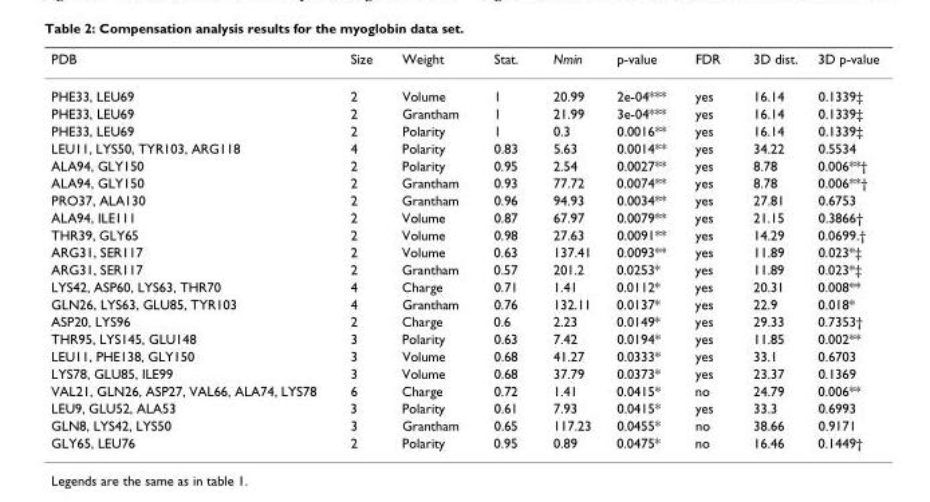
<table><thead><tr><td>PDB</td><td>Size</td><td>Weight</td><td>Stat.</td><td>Nmin</td><td>p-value</td><td>FDR</td><td>3D dist.</td><td>3D p-value</td></tr></thead><tbody><tr><td>PHE33, LEU69</td><td>2</td><td>Volume</td><td>1</td><td>20.99</td><td>2e-04***</td><td>yes</td><td>16.14</td><td>0.1339‡</td></tr><tr><td>PHE33, LEU69</td><td>2</td><td>Grantham</td><td>1</td><td>21.99</td><td>3e-04***</td><td>yes</td><td>16.14</td><td>0.1339‡</td></tr><tr><td>PHE33, LEU69</td><td>2</td><td>Polarity</td><td>1</td><td>0.3</td><td>0.0016**</td><td>yes</td><td>16.14</td><td>0.1339‡</td></tr><tr><td>LEU11, LYS50, TYR103, ARG118</td><td>4</td><td>Polarity</td><td>0.83</td><td>5.63</td><td>0.0014**</td><td>yes</td><td>34.22</td><td>0.5534</td></tr><tr><td>ALA94, GLY150</td><td>2</td><td>Polarity</td><td>0.95</td><td>2.54</td><td>0.0027**</td><td>yes</td><td>8.78</td><td>0.006**†</td></tr><tr><td>ALA94, GLY150</td><td>2</td><td>Grantham</td><td>0.93</td><td>77.72</td><td>0.0074**</td><td>yes</td><td>8.78</td><td>0.006**†</td></tr><tr><td>PRO37, ALA130</td><td>2</td><td>Grantham</td><td>0.96</td><td>94.93</td><td>0.0034**</td><td>yes</td><td>27.81</td><td>0.6753</td></tr><tr><td>ALA94, ILE111</td><td>2</td><td>Volume</td><td>0.87</td><td>67.97</td><td>0.0079**</td><td>yes</td><td>21.15</td><td>0.3866†</td></tr><tr><td>THR39, GLY65</td><td>2</td><td>Volume</td><td>0.98</td><td>27.63</td><td>0.0091**</td><td>yes</td><td>14.29</td><td>0.0699.†</td></tr><tr><td>ARG31, SER117</td><td>2</td><td>Volume</td><td>0.63</td><td>137.41</td><td>0.0093**</td><td>yes</td><td>11.89</td><td>0.023*‡</td></tr><tr><td>ARG31, SER117</td><td>2</td><td>Grantham</td><td>0.57</td><td>201.2</td><td>0.0253*</td><td>yes</td><td>11.89</td><td>0.023*‡</td></tr><tr><td>LYS42, ASP60, LYS63, THR70</td><td>4</td><td>Charge</td><td>0.71</td><td>1.41</td><td>0.0112*</td><td>yes</td><td>20.31</td><td>0.008**</td></tr><tr><td>GLN26, LYS63, GLU85, TYR103</td><td>4</td><td>Grantham</td><td>0.76</td><td>132.11</td><td>0.0137*</td><td>yes</td><td>22.9</td><td>0.018*</td></tr><tr><td>ASP20, LYS96</td><td>2</td><td>Charge</td><td>0.6</td><td>2.23</td><td>0.0149*</td><td>yes</td><td>29.33</td><td>0.7353†</td></tr><tr><td>THR95, LYS145, GLU148</td><td>3</td><td>Polarity</td><td>0.63</td><td>7.42</td><td>0.0194*</td><td>yes</td><td>11.85</td><td>0.002**</td></tr><tr><td>LEU11, PHE138, GLY150</td><td>3</td><td>Volume</td><td>0.68</td><td>41.27</td><td>0.0333*</td><td>yes</td><td>33.1</td><td>0.6703</td></tr><tr><td>LYS78, GLU85, ILE99</td><td>3</td><td>Volume</td><td>0.68</td><td>37.79</td><td>0.0373*</td><td>yes</td><td>23.37</td><td>0.1369</td></tr><tr><td>VAL21, GLN26, ASP27, VAL66, ALA74, LYS78</td><td>6</td><td>Charge</td><td>0.72</td><td>1.41</td><td>0.0415*</td><td>no</td><td>24.79</td><td>0.006**</td></tr><tr><td>LEU9, GLU52, ALA53</td><td>3</td><td>Polarity</td><td>0.61</td><td>7.93</td><td>0.0415*</td><td>yes</td><td>33.3</td><td>0.6993</td></tr><tr><td>GLN8, LYS42, LYS50</td><td>3</td><td>Grantham</td><td>0.65</td><td>117.23</td><td>0.0455*</td><td>no</td><td>38.66</td><td>0.9171</td></tr><tr><td>GLY65, LEU76</td><td>2</td><td>Polarity</td><td>0.95</td><td>0.89</td><td>0.0475*</td><td>no</td><td>16.46</td><td>0.1449†</td></tr></tbody></table>